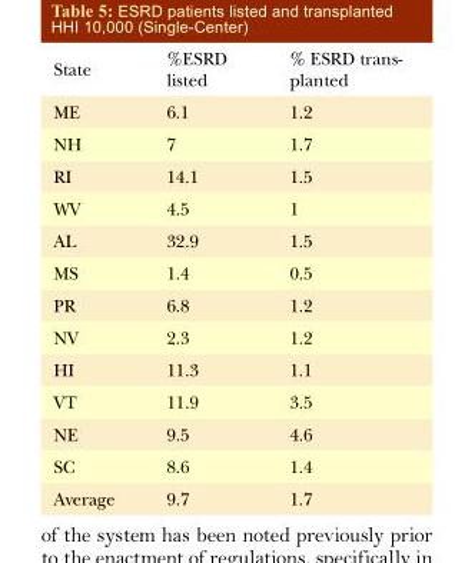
<table><thead><tr><td>State</td><td>%ESRD listed</td><td>% ESRD trans- planted</td></tr></thead><tbody><tr><td>ME</td><td>6.1</td><td>1.2</td></tr><tr><td>NH</td><td>7</td><td>1.7</td></tr><tr><td>RI</td><td>14.1</td><td>1.5</td></tr><tr><td>WV</td><td>4.5</td><td>1</td></tr><tr><td>AL</td><td>32.9</td><td>1.5</td></tr><tr><td>MS</td><td>1.4</td><td>0.5</td></tr><tr><td>PR</td><td>6.8</td><td>1.2</td></tr><tr><td>NV</td><td>2.3</td><td>1.2</td></tr><tr><td>HI</td><td>11.3</td><td>1.1</td></tr><tr><td>VT</td><td>11.9</td><td>3.5</td></tr><tr><td>NE</td><td>9.5</td><td>4.6</td></tr><tr><td>SC</td><td>8.6</td><td>1.4</td></tr><tr><td>Average</td><td>9.7</td><td>1.7</td></tr></tbody></table>